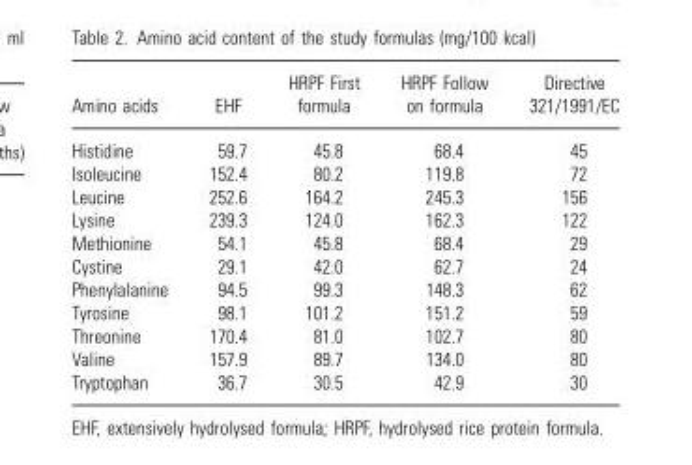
<table><thead><tr><td>Amino acids</td><td>EHF</td><td>HRPF First formula</td><td>HRPF Follow on formula</td><td>Directive 321/1991/EC</td></tr></thead><tbody><tr><td>Histidine</td><td>59.7</td><td>45.8</td><td>68.4</td><td>45</td></tr><tr><td>Isoleucine</td><td>152.4</td><td>80.2</td><td>119.8</td><td>72</td></tr><tr><td>Leucine</td><td>252.6</td><td>164.2</td><td>245.3</td><td>156</td></tr><tr><td>Lysine</td><td>239.3</td><td>124.0</td><td>162.3</td><td>122</td></tr><tr><td>Methionine</td><td>54.1</td><td>45.8</td><td>68.4</td><td>29</td></tr><tr><td>Cystine</td><td>29.1</td><td>42.0</td><td>62.7</td><td>24</td></tr><tr><td>Phenylalanine</td><td>94.5</td><td>99.3</td><td>148.3</td><td>62</td></tr><tr><td>Tyrosine</td><td>98.1</td><td>101.2</td><td>151.2</td><td>59</td></tr><tr><td>Threonine</td><td>170.4</td><td>81.0</td><td>102.7</td><td>80</td></tr><tr><td>Valine</td><td>157.9</td><td>89.7</td><td>134.0</td><td>80</td></tr><tr><td>Tryptophan</td><td>36.7</td><td>30.5</td><td>42.9</td><td>30</td></tr></tbody></table>